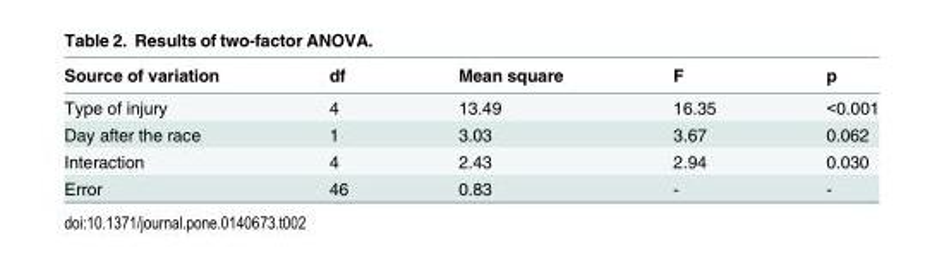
<table><thead><tr><td>Source of variation</td><td>df</td><td>Mean square</td><td>F</td><td>p</td></tr></thead><tbody><tr><td>Type of injury</td><td>4</td><td>13.49</td><td>16.35</td><td>&lt;0.001</td></tr><tr><td>Day after the race</td><td>1</td><td>3.03</td><td>3.67</td><td>0.062</td></tr><tr><td>Interaction</td><td>4</td><td>2.43</td><td>2.94</td><td>0.030</td></tr><tr><td>Error</td><td>46</td><td>0.83</td><td>-</td><td>-</td></tr></tbody></table>